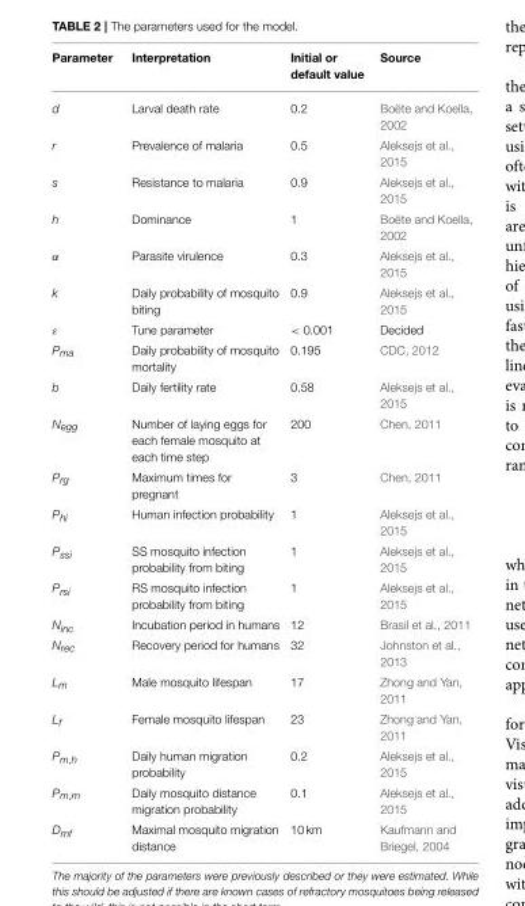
<table><thead><tr><td>Parameter</td><td>Interpretation</td><td>Initial or default value</td><td>Source</td></tr></thead><tbody><tr><td>d</td><td>Larval death rate</td><td>0.2</td><td>Boëte and Koella, 2002</td></tr><tr><td>r</td><td>Prevalence of malaria</td><td>0.5</td><td>Aleksejs et al., 2015</td></tr><tr><td>s</td><td>Resistance to malaria</td><td>0.9</td><td>Aleksejs et al., 2015</td></tr><tr><td>h</td><td>Dominance</td><td>1</td><td>Boëte and Koella, 2002</td></tr><tr><td>α</td><td>Parasite virulence</td><td>0.3</td><td>Aleksejs et al., 2015</td></tr><tr><td>k</td><td>Daily probability of mosquito biting</td><td>0.9</td><td>Aleksejs et al., 2015</td></tr><tr><td>ε</td><td>Tune parameter</td><td>&lt; 0.001</td><td>Decided</td></tr><tr><td>Pma</td><td>Daily probability of mosquito mortality</td><td>0.195</td><td>CDC, 2012</td></tr><tr><td>b</td><td>Daily fertility rate</td><td>0.58</td><td>Aleksejs et al., 2015</td></tr><tr><td>Negg</td><td>Number of laying eggs for each female mosquito at each time step</td><td>200</td><td>Chen, 2011</td></tr><tr><td>Prg</td><td>Maximum times for pregnant</td><td>3</td><td>Chen, 2011</td></tr><tr><td>Phi</td><td>Human infection probability</td><td>1</td><td>Aleksejs et al., 2015</td></tr><tr><td>Pssi</td><td>SS mosquito infection probability from biting</td><td>1</td><td>Aleksejs et al., 2015</td></tr><tr><td>Prsi</td><td>RS mosquito infection probability from biting</td><td>1</td><td>Aleksejs et al., 2015</td></tr><tr><td>Ninc</td><td>Incubation period in humans</td><td>12</td><td>Brasil et al., 2011</td></tr><tr><td>Nrec</td><td>Recovery period for humans</td><td>32</td><td>Johnston et al., 2013</td></tr><tr><td>Lm</td><td>Male mosquito lifespan</td><td>17</td><td>Zhong and Yan, 2011</td></tr><tr><td>Lf</td><td>Female mosquito lifespan</td><td>23</td><td>Zhong and Yan, 2011</td></tr><tr><td>Pm,h</td><td>Daily human migration probability</td><td>0.2</td><td>Aleksejs et al., 2015</td></tr><tr><td>Pm,m</td><td>Daily mosquito distance migration probability</td><td>0.1</td><td>Aleksejs et al., 2015</td></tr><tr><td>Dmf</td><td>Maximal mosquito migration distance</td><td>10 km</td><td>Kaufmann and Briegel, 2004</td></tr></tbody></table>